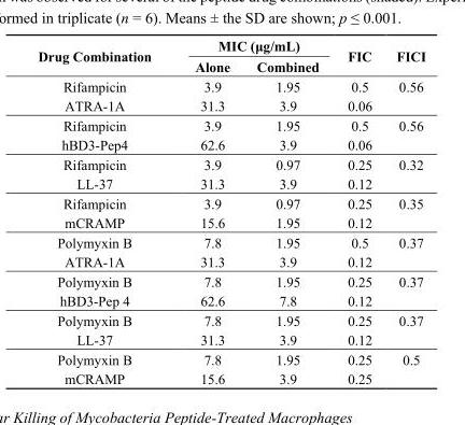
<table><thead><tr><td rowspan="2">Drug Combination</td><td colspan="2">MIC (μg/mL)</td><td rowspan="2">FIC</td><td rowspan="2">FICI</td></tr><tr><td>Alone</td><td>Combined</td></tr></thead><tbody><tr><td rowspan="2">Rifampicin ATRA-1A</td><td>3.9</td><td>1.95</td><td>0.5</td><td>0.56</td></tr><tr><td>31.3</td><td>3.9</td><td>0.06</td><td></td></tr><tr><td rowspan="2">Rifampicin hBD3-Pep4</td><td>3.9</td><td>1.95</td><td>0.5</td><td>0.56</td></tr><tr><td>62.6</td><td>3.9</td><td>0.06</td><td></td></tr><tr><td rowspan="2">Rifampicin LL-37</td><td>3.9</td><td>0.97</td><td>0.25</td><td>0.32</td></tr><tr><td>31.3</td><td>3.9</td><td>0.12</td><td></td></tr><tr><td rowspan="2">Rifampicin mCRAMP</td><td>3.9</td><td>0.97</td><td>0.25</td><td>0.35</td></tr><tr><td>15.6</td><td>1.95</td><td>0.12</td><td></td></tr><tr><td rowspan="2">Polymyxin B ATRA-1A</td><td>7.8</td><td>1.95</td><td>0.5</td><td>0.37</td></tr><tr><td>31.3</td><td>3.9</td><td>0.12</td><td></td></tr><tr><td rowspan="2">Polymyxin B hBD3-Pep 4</td><td>7.8</td><td>1.95</td><td>0.25</td><td>0.37</td></tr><tr><td>62.6</td><td>7.8</td><td>0.12</td><td></td></tr><tr><td rowspan="2">Polymyxin B LL-37</td><td>7.8</td><td>1.95</td><td>0.25</td><td>0.37</td></tr><tr><td>31.3</td><td>3.9</td><td>0.12</td><td></td></tr><tr><td rowspan="2">Polymyxin B mCRAMP</td><td>7.8</td><td>1.95</td><td>0.25</td><td>0.5</td></tr><tr><td>15.6</td><td>3.9</td><td>0.25</td><td></td></tr></tbody></table>